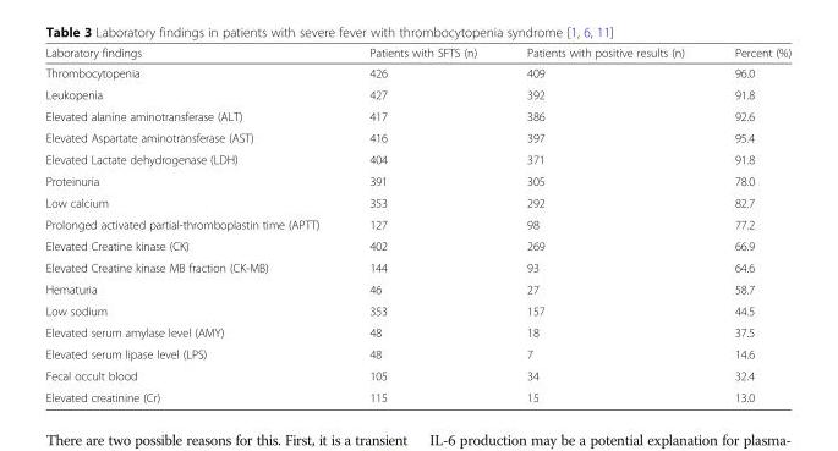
<table><thead><tr><td>Laboratory findings</td><td>Patients with SFTS (n)</td><td>Patients with positive results (n)</td><td>Percent (%)</td></tr></thead><tbody><tr><td>Thrombocytopenia</td><td>426</td><td>409</td><td>96.0</td></tr><tr><td>Leukopenia</td><td>427</td><td>392</td><td>91.8</td></tr><tr><td>Elevated alanine aminotransferase (ALT)</td><td>417</td><td>386</td><td>92.6</td></tr><tr><td>Elevated Aspartate aminotransferase (AST)</td><td>416</td><td>397</td><td>95.4</td></tr><tr><td>Elevated Lactate dehydrogenase (LDH)</td><td>404</td><td>371</td><td>91.8</td></tr><tr><td>Proteinuria</td><td>391</td><td>305</td><td>78.0</td></tr><tr><td>Low calcium</td><td>353</td><td>292</td><td>82.7</td></tr><tr><td>Prolonged activated partial-thromboplastin time (APTT)</td><td>127</td><td>98</td><td>77.2</td></tr><tr><td>Elevated Creatine kinase (CK)</td><td>402</td><td>269</td><td>66.9</td></tr><tr><td>Elevated Creatine kinase MB fraction (CK-MB)</td><td>144</td><td>93</td><td>64.6</td></tr><tr><td>Hematuria</td><td>46</td><td>27</td><td>58.7</td></tr><tr><td>Low sodium</td><td>353</td><td>157</td><td>44.5</td></tr><tr><td>Elevated serum amylase level (AMY)</td><td>48</td><td>18</td><td>37.5</td></tr><tr><td>Elevated serum lipase level (LPS)</td><td>48</td><td>7</td><td>14.6</td></tr><tr><td>Fecal occult blood</td><td>105</td><td>34</td><td>32.4</td></tr><tr><td>Elevated creatinine (Cr)</td><td>115</td><td>15</td><td>13.0</td></tr></tbody></table>